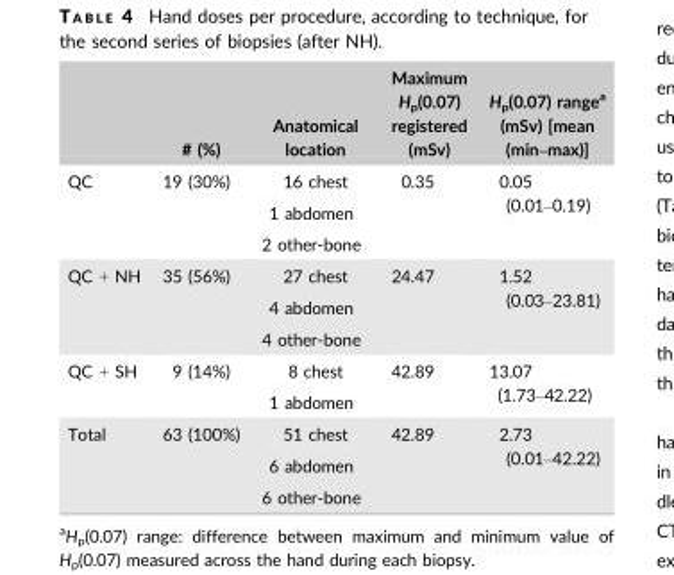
<table><thead><tr><td></td><td># (%)</td><td>Anatomical location</td><td>Maximum H<sub>p</sub>(0.07) registered (mSv)</td><td>H<sub>p</sub>(0.07) range<sup>a</sup> (mSv) [mean (min–max)]</td></tr></thead><tbody><tr><td rowspan="3">QC</td><td rowspan="3">19 (30%)</td><td>16 chest</td><td rowspan="3">0.35</td><td rowspan="3">0.05 (0.01–0.19)</td></tr><tr><td>1 abdomen</td></tr><tr><td>2 other-bone</td></tr><tr><td rowspan="3">QC + NH</td><td rowspan="3">35 (56%)</td><td>27 chest</td><td rowspan="3">24.47</td><td rowspan="3">1.52 (0.03–23.81)</td></tr><tr><td>4 abdomen</td></tr><tr><td>4 other-bone</td></tr><tr><td rowspan="2">QC + SH</td><td rowspan="2">9 (14%)</td><td>8 chest</td><td rowspan="2">42.89</td><td rowspan="2">13.07 (1.73–42.22)</td></tr><tr><td>1 abdomen</td></tr><tr><td rowspan="3">Total</td><td rowspan="3">63 (100%)</td><td>51 chest</td><td rowspan="3">42.89</td><td rowspan="3">2.73 (0.01–42.22)</td></tr><tr><td>6 abdomen</td></tr><tr><td>6 other-bone</td></tr></tbody></table>